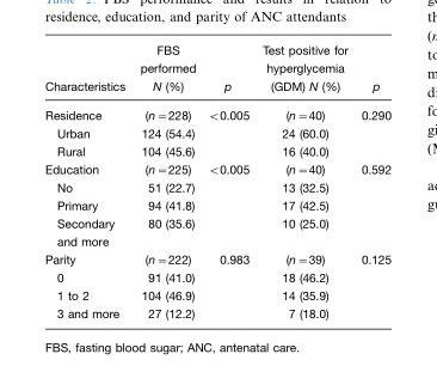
<table><thead><tr><td>Characteristics</td><td>FBS performed N (%)</td><td>p</td><td>Test positive for hyperglycemia (GDM) N (%)</td><td>p</td></tr></thead><tbody><tr><td>Residence</td><td>(n=228)</td><td>&lt;0.005</td><td>(n=40)</td><td>0.290</td></tr><tr><td>Urban</td><td>124 (54.4)</td><td></td><td>24 (60.0)</td><td></td></tr><tr><td>Rural</td><td>104 (45.6)</td><td></td><td>16 (40.0)</td><td></td></tr><tr><td>Education</td><td>(n=225)</td><td>&lt;0.005</td><td>(n=40)</td><td>0.592</td></tr><tr><td>No</td><td>51 (22.7)</td><td></td><td>13 (32.5)</td><td></td></tr><tr><td>Primary</td><td>94 (41.8)</td><td></td><td>17 (42.5)</td><td></td></tr><tr><td>Secondary and more</td><td>80 (35.6)</td><td></td><td>10 (25.0)</td><td></td></tr><tr><td>Parity</td><td>(n=222)</td><td>0.983</td><td>(n=39)</td><td>0.125</td></tr><tr><td>0</td><td>91 (41.0)</td><td></td><td>18 (46.2)</td><td></td></tr><tr><td>1 to 2</td><td>104 (46.9)</td><td></td><td>14 (35.9)</td><td></td></tr><tr><td>3 and more</td><td>27 (12.2)</td><td></td><td>7 (18.0)</td><td></td></tr></tbody></table>